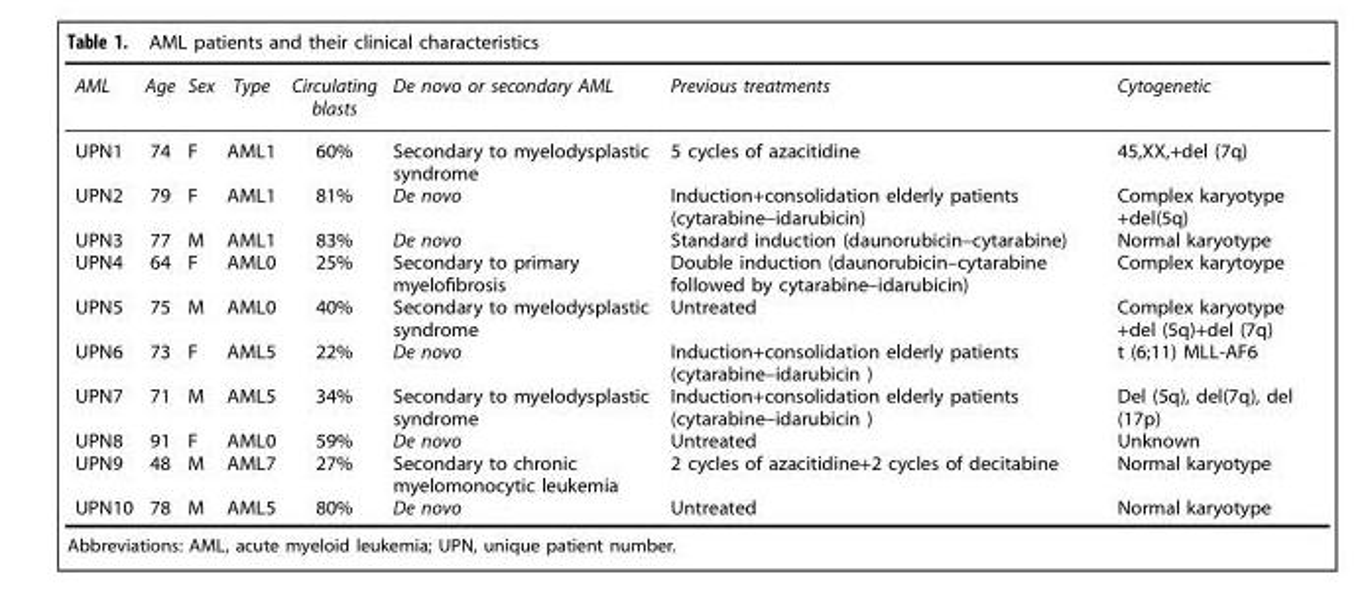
<table><thead><tr><td>AML</td><td>Age</td><td>Sex</td><td>Type</td><td>Circulating blasts</td><td>De novo or secondary AML</td><td>Previous treatments</td><td>Cytogenetic</td></tr></thead><tbody><tr><td>UPN1</td><td>74</td><td>F</td><td>AML1</td><td>60%</td><td>Secondary to myelodysplastic syndrome</td><td>5 cycles of azacitidine</td><td>45,XX,+del (7q)</td></tr><tr><td>UPN2</td><td>79</td><td>F</td><td>AML1</td><td>81%</td><td>De novo</td><td>Induction+consolidation elderly patients (cytarabine–idarubicin)</td><td>Complex karyotype +del(5q)</td></tr><tr><td>UPN3</td><td>77</td><td>M</td><td>AML1</td><td>83%</td><td>De novo</td><td>Standard induction (daunorubicin–cytarabine)</td><td>Normal karyotype</td></tr><tr><td>UPN4</td><td>64</td><td>F</td><td>AML0</td><td>25%</td><td>Secondary to primary myelofibrosis</td><td>Double induction (daunorubicin–cytarabine followed by cytarabine–idarubicin)</td><td>Complex karytoype</td></tr><tr><td>UPN5</td><td>75</td><td>M</td><td>AML0</td><td>40%</td><td>Secondary to myelodysplastic syndrome</td><td>Untreated</td><td>Complex karyotype +del (5q)+del (7q)</td></tr><tr><td>UPN6</td><td>73</td><td>F</td><td>AML5</td><td>22%</td><td>De novo</td><td>Induction+consolidation elderly patients (cytarabine–idarubicin )</td><td>t (6;11) MLL-AF6</td></tr><tr><td>UPN7</td><td>71</td><td>M</td><td>AML5</td><td>34%</td><td>Secondary to myelodysplastic syndrome</td><td>Induction+consolidation elderly patients (cytarabine–idarubicin )</td><td>Del (5q), del(7q), del (17p)</td></tr><tr><td>UPN8</td><td>91</td><td>F</td><td>AML0</td><td>59%</td><td>De novo</td><td>Untreated</td><td>Unknown</td></tr><tr><td>UPN9</td><td>48</td><td>M</td><td>AML7</td><td>27%</td><td>Secondary to chronic myelomonocytic leukemia</td><td>2 cycles of azacitidine+2 cycles of decitabine</td><td>Normal karyotype</td></tr><tr><td>UPN10</td><td>78</td><td>M</td><td>AML5</td><td>80%</td><td>De novo</td><td>Untreated</td><td>Normal karyotype</td></tr></tbody></table>